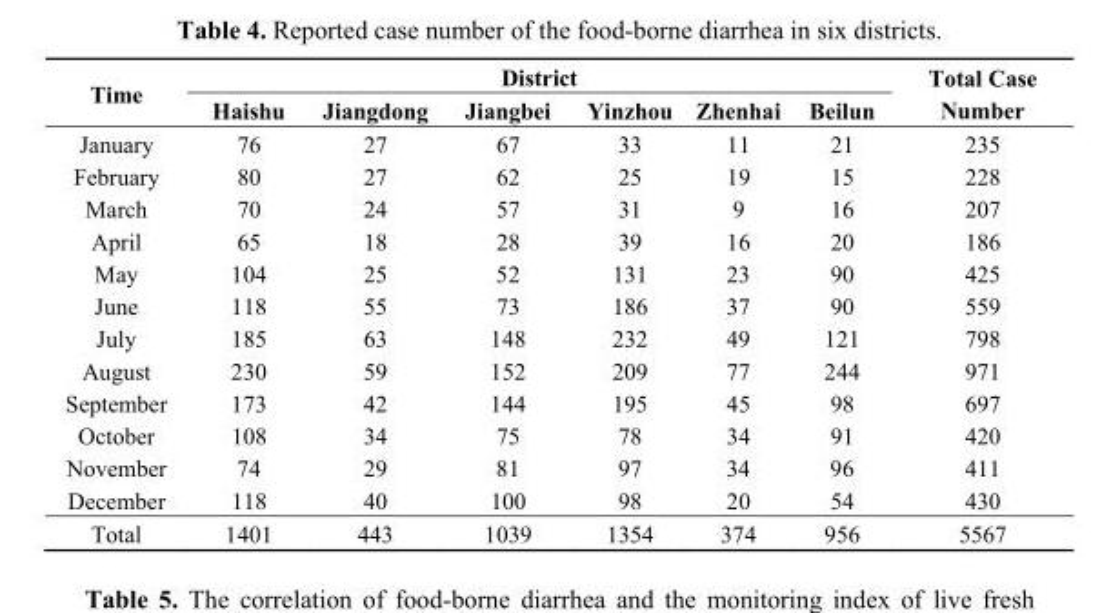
<table><thead><tr><td rowspan="2">Time</td><td colspan="6">District</td><td rowspan="2">Total Case Number</td></tr><tr><td>Haishu</td><td>Jiangdong</td><td>Jiangbei</td><td>Yinzhou</td><td>Zhenhai</td><td>Beilun</td></tr></thead><tbody><tr><td>January</td><td>76</td><td>27</td><td>67</td><td>33</td><td>11</td><td>21</td><td>235</td></tr><tr><td>February</td><td>80</td><td>27</td><td>62</td><td>25</td><td>19</td><td>15</td><td>228</td></tr><tr><td>March</td><td>70</td><td>24</td><td>57</td><td>31</td><td>9</td><td>16</td><td>207</td></tr><tr><td>April</td><td>65</td><td>18</td><td>28</td><td>39</td><td>16</td><td>20</td><td>186</td></tr><tr><td>May</td><td>104</td><td>25</td><td>52</td><td>131</td><td>23</td><td>90</td><td>425</td></tr><tr><td>June</td><td>118</td><td>55</td><td>73</td><td>186</td><td>37</td><td>90</td><td>559</td></tr><tr><td>July</td><td>185</td><td>63</td><td>148</td><td>232</td><td>49</td><td>121</td><td>798</td></tr><tr><td>August</td><td>230</td><td>59</td><td>152</td><td>209</td><td>77</td><td>244</td><td>971</td></tr><tr><td>September</td><td>173</td><td>42</td><td>144</td><td>195</td><td>45</td><td>98</td><td>697</td></tr><tr><td>October</td><td>108</td><td>34</td><td>75</td><td>78</td><td>34</td><td>91</td><td>420</td></tr><tr><td>November</td><td>74</td><td>29</td><td>81</td><td>97</td><td>34</td><td>96</td><td>411</td></tr><tr><td>December</td><td>118</td><td>40</td><td>100</td><td>98</td><td>20</td><td>54</td><td>430</td></tr><tr><td>Total</td><td>1401</td><td>443</td><td>1039</td><td>1354</td><td>374</td><td>956</td><td>5567</td></tr></tbody></table>